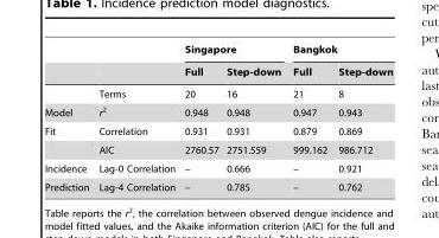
<table><thead><tr><td rowspan="2"></td><td rowspan="2"></td><td colspan="2">Singapore</td><td colspan="2">Bangkok</td></tr><tr><td>Full</td><td>Step-down</td><td>Full</td><td>Step-down</td></tr></thead><tbody><tr><td></td><td>Terms</td><td>20</td><td>16</td><td>21</td><td>8</td></tr><tr><td>Model</td><td>r<sup>2</sup></td><td>0.948</td><td>0.948</td><td>0.947</td><td>0.943</td></tr><tr><td rowspan="2">Fit</td><td>Correlation</td><td>0.931</td><td>0.931</td><td>0.879</td><td>0.869</td></tr><tr><td>AIC</td><td>2760.57</td><td>2751.559</td><td>999.162</td><td>986.712</td></tr><tr><td>Incidence</td><td>Lag-0 Correlation</td><td>–</td><td>0.666</td><td>–</td><td>0.921</td></tr><tr><td>Prediction</td><td>Lag-4 Correlation</td><td>–</td><td>0.785</td><td>–</td><td>0.762</td></tr></tbody></table>